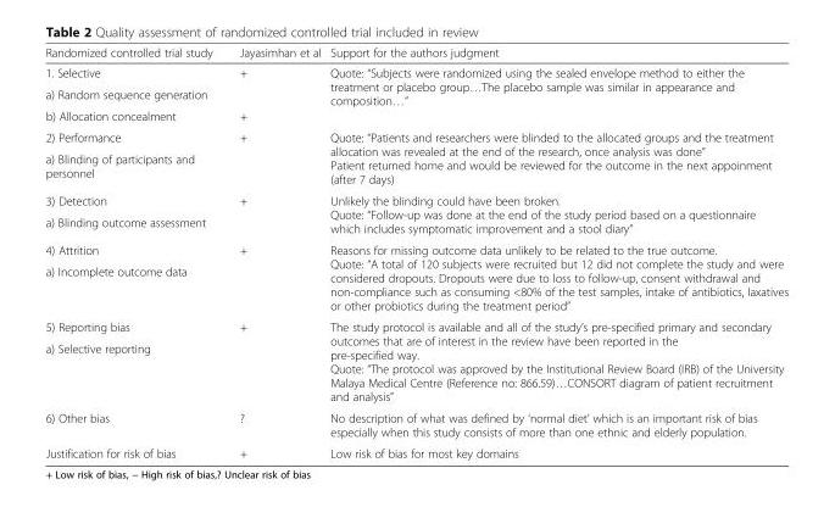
<table><thead><tr><td>Randomized controlled trial study</td><td>Jayasimhan et al</td><td>Support for the authors judgment</td></tr></thead><tbody><tr><td>1. Selective</td><td rowspan="2">+</td><td rowspan="3">Quote: “Subjects were randomized using the sealed envelope method to either the treatment or placebo group…The placebo sample was similar in appearance and composition…”</td></tr><tr><td>a) Random sequence generation</td></tr><tr><td>b) Allocation concealment</td><td>+</td></tr><tr><td>2) Performance</td><td rowspan="2">+</td><td rowspan="2">Quote: “Patients and researchers were blinded to the allocated groups and the treatment allocation was revealed at the end of the research, once analysis was done” Patient returned home and would be reviewed for the outcome in the next appoinment (after 7 days)</td></tr><tr><td>a) Blinding of participants and personnel</td></tr><tr><td>3) Detection</td><td rowspan="2">+</td><td rowspan="2">Unlikely the blinding could have been broken. Quote: “Follow-up was done at the end of the study period based on a questionnaire which includes symptomatic improvement and a stool diary”</td></tr><tr><td>a) Blinding outcome assessment</td></tr><tr><td>4) Attrition</td><td rowspan="2">+</td><td rowspan="2">Reasons for missing outcome data unlikely to be related to the true outcome. Quote: “A total of 120 subjects were recruited but 12 did not complete the study and were considered dropouts. Dropouts were due to loss to follow-up, consent withdrawal and non-compliance such as consuming &lt;80% of the test samples, intake of antibiotics, laxatives or other probiotics during the treatment period”</td></tr><tr><td>a) Incomplete outcome data</td></tr><tr><td>5) Reporting bias</td><td rowspan="2">+</td><td rowspan="2">The study protocol is available and all of the study’s pre-specified primary and secondary outcomes that are of interest in the review have been reported in the pre-specified way. Quote: “The protocol was approved by the Institutional Review Board (IRB) of the University Malaya Medical Centre (Reference no: 866.59)…CONSORT diagram of patient recruitment and analysis”</td></tr><tr><td>a) Selective reporting</td></tr><tr><td>6) Other bias</td><td>?</td><td>No description of what was defined by ‘normal diet’ which is an important risk of bias especially when this study consists of more than one ethnic and elderly population.</td></tr><tr><td>Justification for risk of bias</td><td>+</td><td>Low risk of bias for most key domains</td></tr></tbody></table>